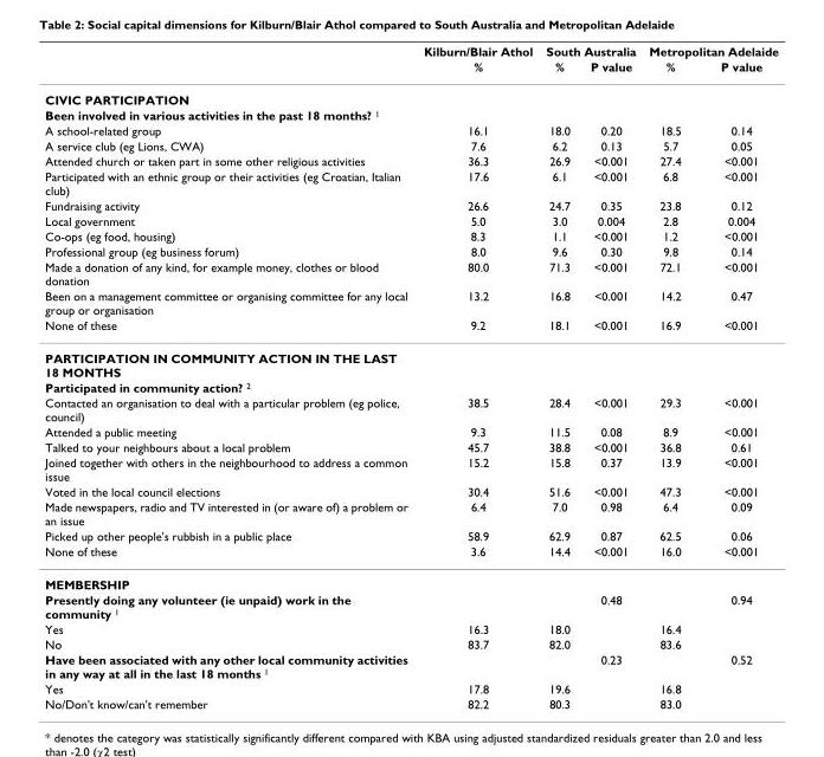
<table><thead><tr><td rowspan="2"></td><td rowspan="2">Kilburn/Blair Athol %</td><td colspan="2">South Australia</td><td colspan="2">Metropolitan Adelaide</td></tr><tr><td>%</td><td>P value</td><td>%</td><td>P value</td></tr></thead><tbody><tr><td colspan="6">CIVIC PARTICIPATION</td></tr><tr><td colspan="6">Been involved in various activities in the past 18 months? <sup>1</sup></td></tr><tr><td>A school-related group</td><td>16.1</td><td>18.0</td><td>0.20</td><td>18.5</td><td>0.14</td></tr><tr><td>A service club (eg Lions, CWA)</td><td>7.6</td><td>6.2</td><td>0.13</td><td>5.7</td><td>0.05</td></tr><tr><td>Attended church or taken part in some other religious activities</td><td>36.3</td><td>26.9</td><td>&lt;0.001</td><td>27.4</td><td>&lt;0.001</td></tr><tr><td>Participated with an ethnic group or their activities (eg Croatian, Italian club)</td><td>17.6</td><td>6.1</td><td>&lt;0.001</td><td>6.8</td><td>&lt;0.001</td></tr><tr><td>Fundraising activity</td><td>26.6</td><td>24.7</td><td>0.35</td><td>23.8</td><td>0.12</td></tr><tr><td>Local government</td><td>5.0</td><td>3.0</td><td>0.004</td><td>2.8</td><td>0.004</td></tr><tr><td>Co-ops (eg food, housing)</td><td>8.3</td><td>1.1</td><td>&lt;0.001</td><td>1.2</td><td>&lt;0.001</td></tr><tr><td>Professional group (eg business forum)</td><td>8.0</td><td>9.6</td><td>0.30</td><td>9.8</td><td>0.14</td></tr><tr><td>Made a donation of any kind, for example money, clothes or blood donation</td><td>80.0</td><td>71.3</td><td>&lt;0.001</td><td>72.1</td><td>&lt;0.001</td></tr><tr><td>Been on a management committee or organising committee for any local group or organisation</td><td>13.2</td><td>16.8</td><td>&lt;0.001</td><td>14.2</td><td>0.47</td></tr><tr><td>None of these</td><td>9.2</td><td>18.1</td><td>&lt;0.001</td><td>16.9</td><td>&lt;0.001</td></tr><tr><td colspan="6">PARTICIPATION IN COMMUNITY ACTION IN THE LAST 18 MONTHS</td></tr><tr><td colspan="6">Participated in community action? <sup>2</sup></td></tr><tr><td>Contacted an organisation to deal with a particular problem (eg police, council)</td><td>38.5</td><td>28.4</td><td>&lt;0.001</td><td>29.3</td><td>&lt;0.001</td></tr><tr><td>Attended a public meeting</td><td>9.3</td><td>11.5</td><td>0.08</td><td>8.9</td><td>&lt;0.001</td></tr><tr><td>Talked to your neighbours about a local problem</td><td>45.7</td><td>38.8</td><td>&lt;0.001</td><td>36.8</td><td>0.61</td></tr><tr><td>Joined together with others in the neighbourhood to address a common issue</td><td>15.2</td><td>15.8</td><td>0.37</td><td>13.9</td><td>&lt;0.001</td></tr><tr><td>Voted in the local council elections</td><td>30.4</td><td>51.6</td><td>&lt;0.001</td><td>47.3</td><td>&lt;0.001</td></tr><tr><td>Made newspapers, radio and TV interested in (or aware of) a problem or an issue</td><td>6.4</td><td>7.0</td><td>0.98</td><td>6.4</td><td>0.09</td></tr><tr><td>Picked up other people&#x27;s rubbish in a public place</td><td>58.9</td><td>62.9</td><td>0.87</td><td>62.5</td><td>0.06</td></tr><tr><td>None of these</td><td>3.6</td><td>14.4</td><td>&lt;0.001</td><td>16.0</td><td>&lt;0.001</td></tr><tr><td colspan="6">MEMBERSHIP</td></tr><tr><td>Presently doing any volunteer (ie unpaid) work in the community <sup>1</sup></td><td></td><td></td><td>0.48</td><td></td><td>0.94</td></tr><tr><td>Yes</td><td>16.3</td><td>18.0</td><td></td><td>16.4</td><td></td></tr><tr><td>No</td><td>83.7</td><td>82.0</td><td></td><td>83.6</td><td></td></tr><tr><td>Have been associated with any other local community activities in any way at all in the last 18 months <sup>1</sup></td><td></td><td></td><td>0.23</td><td></td><td>0.52</td></tr><tr><td>Yes</td><td>17.8</td><td>19.6</td><td></td><td>16.8</td><td></td></tr><tr><td>No/Don&#x27;t know/can&#x27;t remember</td><td>82.2</td><td>80.3</td><td></td><td>83.0</td><td></td></tr></tbody></table>